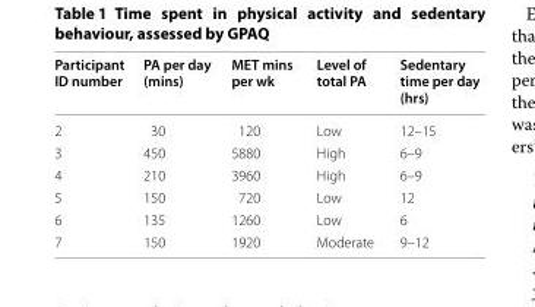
<table><thead><tr><td>Participant ID number</td><td>PA per day (mins)</td><td>MET mins per wk</td><td>Level of total PA</td><td>Sedentary time per day (hrs)</td></tr></thead><tbody><tr><td>2</td><td>30</td><td>120</td><td>Low</td><td>12–15</td></tr><tr><td>3</td><td>450</td><td>5880</td><td>High</td><td>6–9</td></tr><tr><td>4</td><td>210</td><td>3960</td><td>High</td><td>6–9</td></tr><tr><td>5</td><td>150</td><td>720</td><td>Low</td><td>12</td></tr><tr><td>6</td><td>135</td><td>1260</td><td>Low</td><td>6</td></tr><tr><td>7</td><td>150</td><td>1920</td><td>Moderate</td><td>9–12</td></tr></tbody></table>